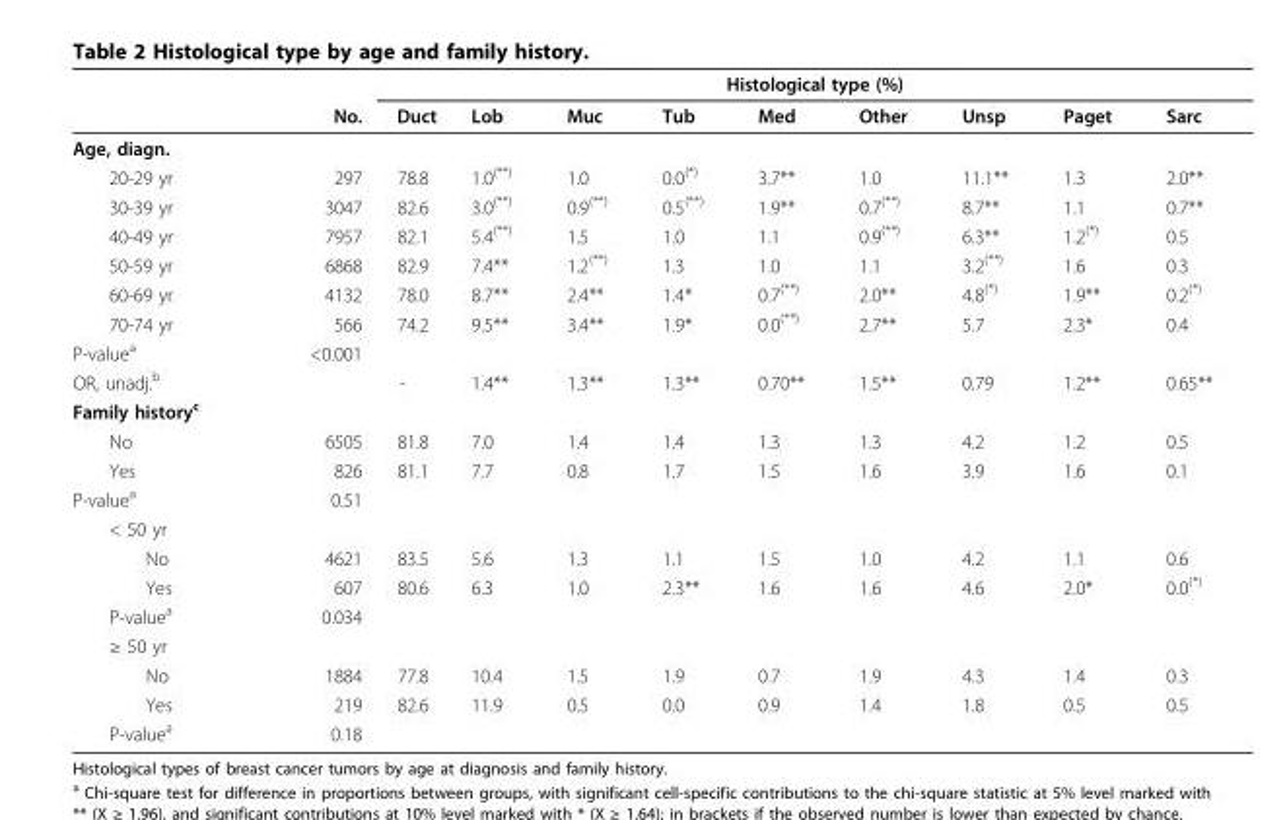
<table><thead><tr><td rowspan="2"></td><td rowspan="2">No.</td><td colspan="9">Histological type (%)</td></tr><tr><td>Duct</td><td>Lob</td><td>Muc</td><td>Tub</td><td>Med</td><td>Other</td><td>Unsp</td><td>Paget</td><td>Sarc</td></tr></thead><tbody><tr><td colspan="11">Age, diagn.</td></tr><tr><td>20-29 yr</td><td>297</td><td>78.8</td><td>1.0<sup>(**)</sup></td><td>1.0</td><td>0.0<sup>(*)</sup></td><td>3.7**</td><td>1.0</td><td>11.1**</td><td>1.3</td><td>2.0**</td></tr><tr><td>30-39 yr</td><td>3047</td><td>82.6</td><td>3.0<sup>(**)</sup></td><td>0.9<sup>(**)</sup></td><td>0.5<sup>(**)</sup></td><td>1.9**</td><td>0.7<sup>(**)</sup></td><td>8.7**</td><td>1.1</td><td>0.7**</td></tr><tr><td>40-49 yr</td><td>7957</td><td>82.1</td><td>5.4<sup>(**)</sup></td><td>1.5</td><td>1.0</td><td>1.1</td><td>0.9<sup>(**)</sup></td><td>6.3**</td><td>1.2<sup>(*)</sup></td><td>0.5</td></tr><tr><td>50-59 yr</td><td>6868</td><td>82.9</td><td>7.4**</td><td>1.2<sup>(**)</sup></td><td>1.3</td><td>1.0</td><td>1.1</td><td>3.2<sup>(**)</sup></td><td>1.6</td><td>0.3</td></tr><tr><td>60-69 yr</td><td>4132</td><td>78.0</td><td>8.7**</td><td>2.4**</td><td>1.4*</td><td>0.7<sup>(**)</sup></td><td>2.0**</td><td>4.8<sup>(*)</sup></td><td>1.9**</td><td>0.2<sup>(*)</sup></td></tr><tr><td>70-74 yr</td><td>566</td><td>74.2</td><td>9.5**</td><td>3.4**</td><td>1.9*</td><td>0.0<sup>(**)</sup></td><td>2.7**</td><td>5.7</td><td>2.3*</td><td>0.4</td></tr><tr><td>P-value<sup>a</sup></td><td>&lt;0.001</td><td></td><td></td><td></td><td></td><td></td><td></td><td></td><td></td><td></td></tr><tr><td>OR, unadj.<sup>b</sup></td><td></td><td>-</td><td>1.4**</td><td>1.3**</td><td>1.3**</td><td>0.70**</td><td>1.5**</td><td>0.79</td><td>1.2**</td><td>0.65**</td></tr><tr><td colspan="11">Family history<sup>c</sup></td></tr><tr><td>No</td><td>6505</td><td>81.8</td><td>7.0</td><td>1.4</td><td>1.4</td><td>1.3</td><td>1.3</td><td>4.2</td><td>1.2</td><td>0.5</td></tr><tr><td>Yes</td><td>826</td><td>81.1</td><td>7.7</td><td>0.8</td><td>1.7</td><td>1.5</td><td>1.6</td><td>3.9</td><td>1.6</td><td>0.1</td></tr><tr><td>P-value<sup>a</sup></td><td>0.51</td><td></td><td></td><td></td><td></td><td></td><td></td><td></td><td></td><td></td></tr><tr><td colspan="11">&lt; 50 yr</td></tr><tr><td>No</td><td>4621</td><td>83.5</td><td>5.6</td><td>1.3</td><td>1.1</td><td>1.5</td><td>1.0</td><td>4.2</td><td>1.1</td><td>0.6</td></tr><tr><td>Yes</td><td>607</td><td>80.6</td><td>6.3</td><td>1.0</td><td>2.3**</td><td>1.6</td><td>1.6</td><td>4.6</td><td>2.0*</td><td>0.0<sup>(*)</sup></td></tr><tr><td>P-value<sup>a</sup></td><td>0.034</td><td></td><td></td><td></td><td></td><td></td><td></td><td></td><td></td><td></td></tr><tr><td colspan="11">≥ 50 yr</td></tr><tr><td>No</td><td>1884</td><td>77.8</td><td>10.4</td><td>1.5</td><td>1.9</td><td>0.7</td><td>1.9</td><td>4.3</td><td>1.4</td><td>0.3</td></tr><tr><td>Yes</td><td>219</td><td>82.6</td><td>11.9</td><td>0.5</td><td>0.0</td><td>0.9</td><td>1.4</td><td>1.8</td><td>0.5</td><td>0.5</td></tr><tr><td>P-value<sup>a</sup></td><td>0.18</td><td></td><td></td><td></td><td></td><td></td><td></td><td></td><td></td><td></td></tr></tbody></table>